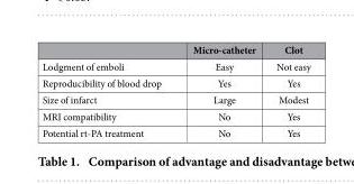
<table><thead><tr><td></td><td>Micro-catheter</td><td>Clot</td></tr></thead><tbody><tr><td>Lodgment of emboli</td><td>Easy</td><td>Not easy</td></tr><tr><td>Reproducibility of blood drop</td><td>Yes</td><td>Yes</td></tr><tr><td>Size of infarct</td><td>Large</td><td>Modest</td></tr><tr><td>MRI compatibility</td><td>No</td><td>Yes</td></tr><tr><td>Potential rt-PA treatment</td><td>No</td><td>Yes</td></tr></tbody></table>